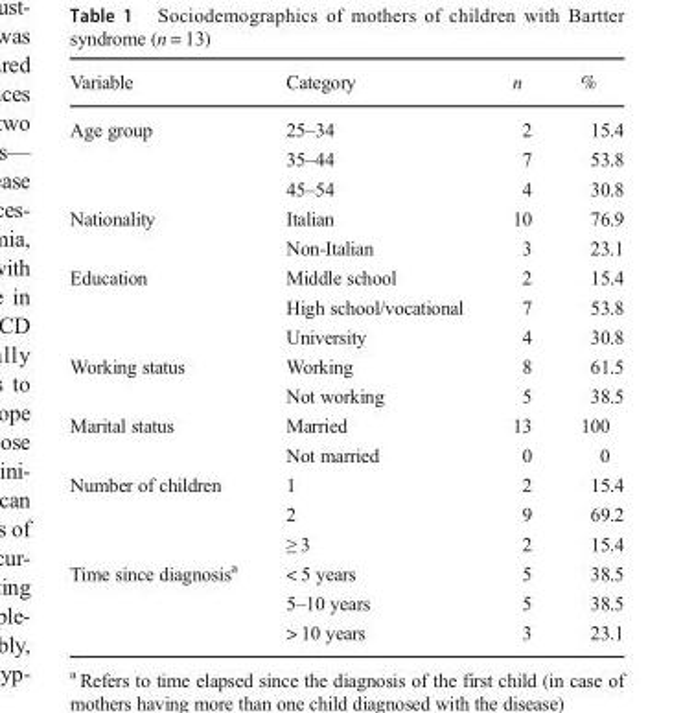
<table><thead><tr><td>Variable</td><td>Category</td><td>n</td><td>%</td></tr></thead><tbody><tr><td rowspan="3">Age group</td><td>25–34</td><td>2</td><td>15.4</td></tr><tr><td>35–44</td><td>7</td><td>53.8</td></tr><tr><td>45–54</td><td>4</td><td>30.8</td></tr><tr><td rowspan="2">Nationality</td><td>Italian</td><td>10</td><td>76.9</td></tr><tr><td>Non-Italian</td><td>3</td><td>23.1</td></tr><tr><td rowspan="3">Education</td><td>Middle school</td><td>2</td><td>15.4</td></tr><tr><td>High school/vocational</td><td>7</td><td>53.8</td></tr><tr><td>University</td><td>4</td><td>30.8</td></tr><tr><td rowspan="2">Working status</td><td>Working</td><td>8</td><td>61.5</td></tr><tr><td>Not working</td><td>5</td><td>38.5</td></tr><tr><td rowspan="2">Marital status</td><td>Married</td><td>13</td><td>100</td></tr><tr><td>Not married</td><td>0</td><td>0</td></tr><tr><td rowspan="3">Number of children</td><td>1</td><td>2</td><td>15.4</td></tr><tr><td>2</td><td>9</td><td>69.2</td></tr><tr><td>≥ 3</td><td>2</td><td>15.4</td></tr><tr><td rowspan="3">Time since diagnosis<sup>a</sup></td><td>&lt; 5 years</td><td>5</td><td>38.5</td></tr><tr><td>5–10 years</td><td>5</td><td>38.5</td></tr><tr><td>&gt; 10 years</td><td>3</td><td>23.1</td></tr></tbody></table>